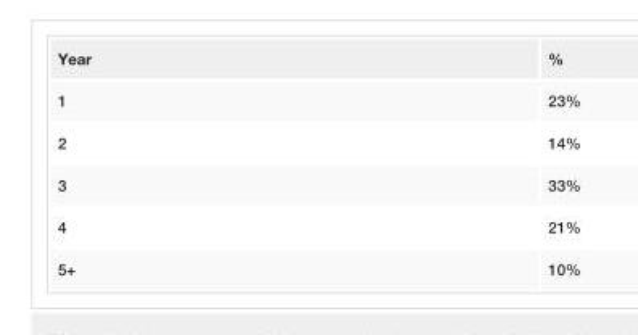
<table><tbody><tr><td>Year</td><td>%</td></tr><tr><td>1</td><td>23%</td></tr><tr><td>2</td><td>14%</td></tr><tr><td>3</td><td>33%</td></tr><tr><td>4</td><td>21%</td></tr><tr><td>5+</td><td>10%</td></tr></tbody></table>